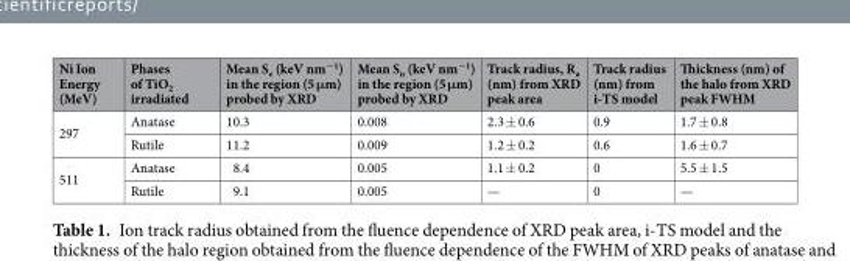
<table><thead><tr><td>Ni Ion Energy (MeV)</td><td>Phases of TiO<sub>2</sub> irradiated</td><td>Mean S<sub>e</sub> (keV nm<sup>−1</sup>) in the region (5 μm) probed by XRD</td><td>Mean S<sub>n</sub> (keV nm<sup>−1</sup>) in the region (5 μm) probed by XRD</td><td>Track radius, R<sub>a</sub> (nm) from XRD peak area</td><td>Track radius (nm) from i-TS model</td><td>Thickness (nm) of the halo from XRD peak FWHM</td></tr></thead><tbody><tr><td rowspan="2">297</td><td>Anatase</td><td>10.3</td><td>0.008</td><td>2.3 ± 0.6</td><td>0.9</td><td>1.7 ± 0.8</td></tr><tr><td>Rutile</td><td>11.2</td><td>0.009</td><td>1.2 ± 0.2</td><td>0.6</td><td>1.6 ± 0.7</td></tr><tr><td rowspan="2">511</td><td>Anatase</td><td>8.4</td><td>0.005</td><td>1.1 ± 0.2</td><td>0</td><td>5.5 ± 1.5</td></tr><tr><td>Rutile</td><td>9.1</td><td>0.005</td><td>—</td><td>0</td><td>—</td></tr></tbody></table>